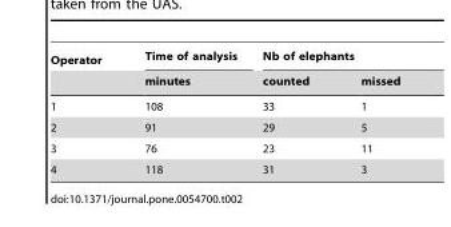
<table><thead><tr><td rowspan="2">Operator</td><td rowspan="2">Time of analysis minutes</td><td colspan="2">Nb of elephants</td></tr><tr><td>counted</td><td>missed</td></tr></thead><tbody><tr><td>1</td><td>108</td><td>33</td><td>1</td></tr><tr><td>2</td><td>91</td><td>29</td><td>5</td></tr><tr><td>3</td><td>76</td><td>23</td><td>11</td></tr><tr><td>4</td><td>118</td><td>31</td><td>3</td></tr></tbody></table>